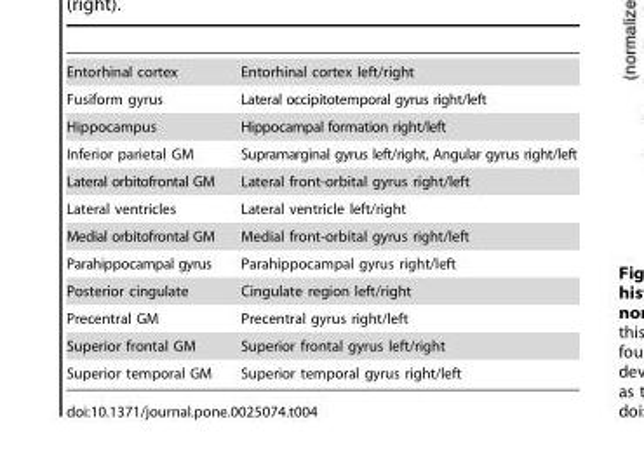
<table><tbody><tr><td>Entorhinal cortex</td><td>Entorhinal cortex left/right</td></tr><tr><td>Fusiform gyrus</td><td>Lateral occipitotemporal gyrus right/left</td></tr><tr><td>Hippocampus</td><td>Hippocampal formation right/left</td></tr><tr><td>Inferior parietal GM</td><td>Supramarginal gyrus left/right, Angular gyrus right/left</td></tr><tr><td>Lateral orbitofrontal GM</td><td>Lateral front-orbital gyrus right/left</td></tr><tr><td>Lateral ventricles</td><td>Lateral ventricle left/right</td></tr><tr><td>Medial orbitofrontal GM</td><td>Medial front-orbital gyrus right/left</td></tr><tr><td>Parahippocampal gyrus</td><td>Parahippocampal gyrus right/left</td></tr><tr><td>Posterior cingulate</td><td>Cingulate region left/right</td></tr><tr><td>Precentral GM</td><td>Precentral gyrus right/left</td></tr><tr><td>Superior frontal GM</td><td>Superior frontal gyrus left/right</td></tr><tr><td>Superior temporal GM</td><td>Superior temporal gyrus right/left</td></tr></tbody></table>